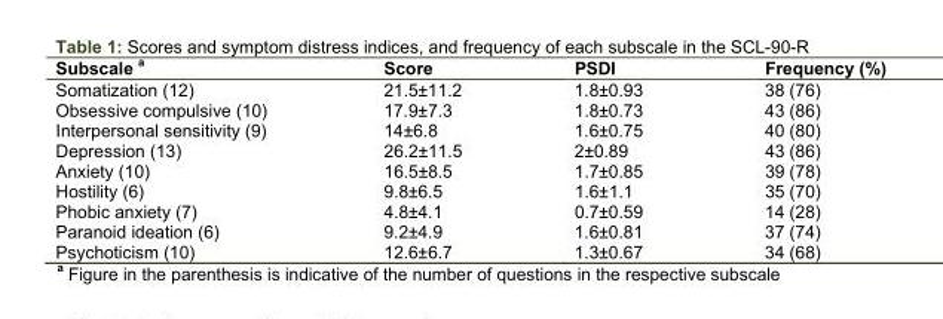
<table><thead><tr><td>Subscale a</td><td>Score</td><td>PSDI</td><td>Frequency (%)</td></tr></thead><tbody><tr><td>Somatization (12)</td><td>21.5±11.2</td><td>1.8±0.93</td><td>38 (76)</td></tr><tr><td>Obsessive compulsive (10)</td><td>17.9±7.3</td><td>1.8±0.73</td><td>43 (86)</td></tr><tr><td>Interpersonal sensitivity (9)</td><td>14±6.8</td><td>1.6±0.75</td><td>40 (80)</td></tr><tr><td>Depression (13)</td><td>26.2±11.5</td><td>2±0.89</td><td>43 (86)</td></tr><tr><td>Anxiety (10)</td><td>16.5±8.5</td><td>1.7±0.85</td><td>39 (78)</td></tr><tr><td>Hostility (6)</td><td>9.8±6.5</td><td>1.6±1.1</td><td>35 (70)</td></tr><tr><td>Phobic anxiety (7)</td><td>4.8±4.1</td><td>0.7±0.59</td><td>14 (28)</td></tr><tr><td>Paranoid ideation (6)</td><td>9.2±4.9</td><td>1.6±0.81</td><td>37 (74)</td></tr><tr><td>Psychoticism (10)</td><td>12.6±6.7</td><td>1.3±0.67</td><td>34 (68)</td></tr></tbody></table>